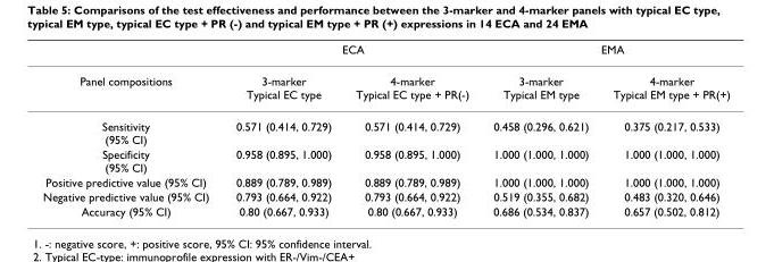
<table><thead><tr><td rowspan="2">Panel compositions</td><td colspan="2">ECA</td><td colspan="2">EMA</td></tr><tr><td>3-marker Typical EC type</td><td>4-marker Typical EC type + PR(-)</td><td>3-marker Typical EM type</td><td>4-marker Typical EM type + PR(+)</td></tr></thead><tbody><tr><td>Sensitivity (95% CI)</td><td>0.571 (0.414, 0.729)</td><td>0.571 (0.414, 0.729)</td><td>0.458 (0.296, 0.621)</td><td>0.375 (0.217, 0.533)</td></tr><tr><td>Specificity (95% CI)</td><td>0.958 (0.895, 1.000)</td><td>0.958 (0.895, 1.000)</td><td>1.000 (1.000, 1.000)</td><td>1.000 (1.000, 1.000)</td></tr><tr><td>Positive predictive value (95% CI)</td><td>0.889 (0.789, 0.989)</td><td>0.889 (0.789, 0.989)</td><td>1.000 (1.000, 1.000)</td><td>1.000 (1.000, 1.000)</td></tr><tr><td>Negative predictive value (95% CI)</td><td>0.793 (0.664, 0.922)</td><td>0.793 (0.664, 0.922)</td><td>0.519 (0.355, 0.682)</td><td>0.483 (0.320, 0.646)</td></tr><tr><td>Accuracy (95% CI)</td><td>0.80 (0.667, 0.933)</td><td>0.80 (0.667, 0.933)</td><td>0.686 (0.534, 0.837)</td><td>0.657 (0.502, 0.812)</td></tr></tbody></table>